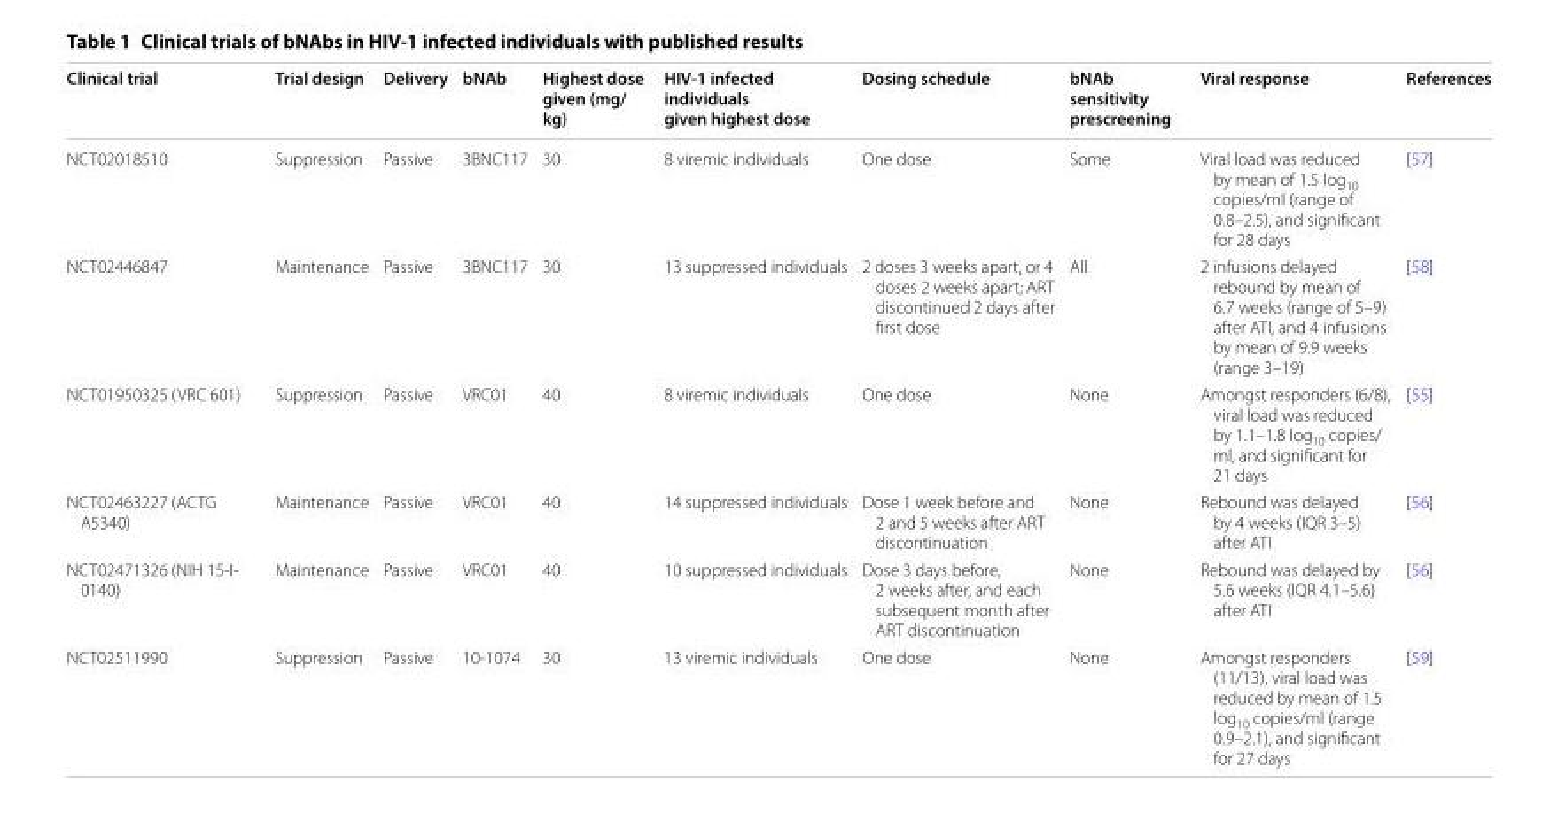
<table><thead><tr><td>Clinical trial</td><td>Trial design</td><td>Delivery</td><td>bNAb</td><td>Highest dose given (mg/ kg)</td><td>HIV‑1 infected individuals given highest dose</td><td>Dosing schedule</td><td>bNAb sensitivity prescreening</td><td>Viral response</td><td>References</td></tr></thead><tbody><tr><td>NCT02018510</td><td>Suppression</td><td>Passive</td><td>3BNC117</td><td>30</td><td>8 viremic individuals</td><td>One dose</td><td>Some</td><td>Viral load was reduced by mean of 1.5 log<sub>10</sub> copies/ml (range of 0.8–2.5), and significant for 28 days</td><td>[57]</td></tr><tr><td>NCT02446847</td><td>Maintenance</td><td>Passive</td><td>3BNC117</td><td>30</td><td>13 suppressed individuals</td><td>2 doses 3 weeks apart, or 4 doses 2 weeks apart; ART discontinued 2 days after first dose</td><td>All</td><td>2 infusions delayed rebound by mean of 6.7 weeks (range of 5–9) after ATI, and 4 infusions by mean of 9.9 weeks (range 3–19)</td><td>[58]</td></tr><tr><td>NCT01950325 (VRC 601)</td><td>Suppression</td><td>Passive</td><td>VRC01</td><td>40</td><td>8 viremic individuals</td><td>One dose</td><td>None</td><td>Amongst responders (6/8), viral load was reduced by 1.1–1.8 log<sub>10</sub> copies/ ml, and significant for 21 days</td><td>[55]</td></tr><tr><td>NCT02463227 (ACTG A5340)</td><td>Maintenance</td><td>Passive</td><td>VRC01</td><td>40</td><td>14 suppressed individuals</td><td>Dose 1 week before and 2 and 5 weeks after ART discontinuation</td><td>None</td><td>Rebound was delayed by 4 weeks (IQR 3–5) after ATI</td><td>[56]</td></tr><tr><td>NCT02471326 (NIH 15-I- 0140)</td><td>Maintenance</td><td>Passive</td><td>VRC01</td><td>40</td><td>10 suppressed individuals</td><td>Dose 3 days before, 2 weeks after, and each subsequent month after ART discontinuation</td><td>None</td><td>Rebound was delayed by 5.6 weeks (IQR 4.1–5.6) after ATI</td><td>[56]</td></tr><tr><td>NCT02511990</td><td>Suppression</td><td>Passive</td><td>10-1074</td><td>30</td><td>13 viremic individuals</td><td>One dose</td><td>None</td><td>Amongst responders (11/13), viral load was reduced by mean of 1.5 log<sub>10</sub> copies/ml (range 0.9–2.1), and significant for 27 days</td><td>[59]</td></tr></tbody></table>